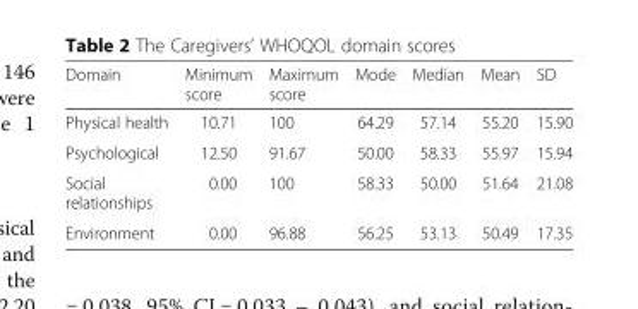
<table><thead><tr><td>Domain</td><td>Minimum score</td><td>Maximum score</td><td>Mode</td><td>Median</td><td>Mean</td><td>SD</td></tr></thead><tbody><tr><td>Physical health</td><td>10.71</td><td>100</td><td>64.29</td><td>57.14</td><td>55.20</td><td>15.90</td></tr><tr><td>Psychological</td><td>12.50</td><td>91.67</td><td>50.00</td><td>58.33</td><td>55.97</td><td>15.94</td></tr><tr><td>Social relationships</td><td>0.00</td><td>100</td><td>58.33</td><td>50.00</td><td>51.64</td><td>21.08</td></tr><tr><td>Environment</td><td>0.00</td><td>96.88</td><td>56.25</td><td>53.13</td><td>50.49</td><td>17.35</td></tr></tbody></table>